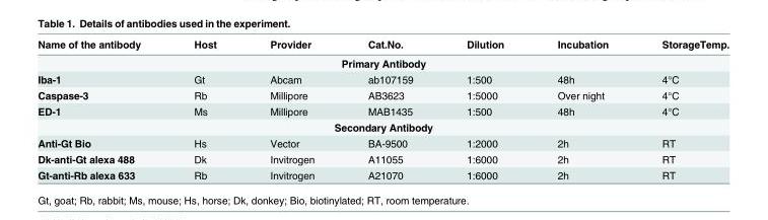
<table><thead><tr><td>Name of the antibody</td><td>Host</td><td>Provider</td><td>Cat.No.</td><td>Dilution</td><td>Incubation</td><td>StorageTemp.</td></tr></thead><tbody><tr><td colspan="7">Primary Antibody</td></tr><tr><td>Iba-1</td><td>Gt</td><td>Abcam</td><td>ab107159</td><td>1:500</td><td>48h</td><td>4°C</td></tr><tr><td>Caspase-3</td><td>Rb</td><td>Millipore</td><td>AB3623</td><td>1:5000</td><td>Over night</td><td>4°C</td></tr><tr><td>ED-1</td><td>Ms</td><td>Millipore</td><td>MAB1435</td><td>1:500</td><td>48h</td><td>4°C</td></tr><tr><td colspan="7">Secondary Antibody</td></tr><tr><td>Anti-Gt Bio</td><td>Hs</td><td>Vector</td><td>BA-9500</td><td>1:2000</td><td>2h</td><td>RT</td></tr><tr><td>Dk-anti-Gt alexa 488</td><td>Dk</td><td>Invitrogen</td><td>A11055</td><td>1:6000</td><td>2h</td><td>RT</td></tr><tr><td>Gt-anti-Rb alexa 633</td><td>Rb</td><td>Invitrogen</td><td>A21070</td><td>1:6000</td><td>2h</td><td>RT</td></tr></tbody></table>